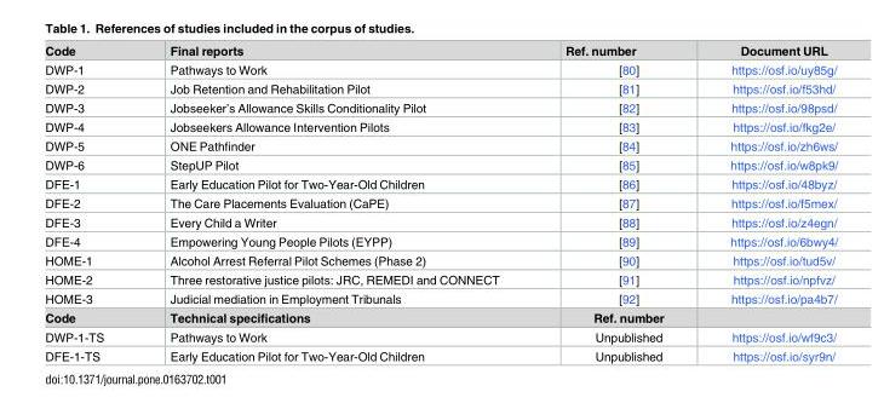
<table><tbody><tr><td>Code</td><td>Final reports</td><td>Ref. number</td><td>Document URL</td></tr><tr><td>DWP-1</td><td>Pathways to Work</td><td>[80]</td><td>https://osf.io/uy85g/</td></tr><tr><td>DWP-2</td><td>Job Retention and Rehabilitation Pilot</td><td>[81]</td><td>https://osf.io/f53hd/</td></tr><tr><td>DWP-3</td><td>Jobseeker’s Allowance Skills Conditionality Pilot</td><td>[82]</td><td>https://osf.io/98psd/</td></tr><tr><td>DWP-4</td><td>Jobseekers Allowance Intervention Pilots</td><td>[83]</td><td>https://osf.io/fkg2e/</td></tr><tr><td>DWP-5</td><td>ONE Pathfinder</td><td>[84]</td><td>https://osf.io/zh6ws/</td></tr><tr><td>DWP-6</td><td>StepUP Pilot</td><td>[85]</td><td>https://osf.io/w8pk9/</td></tr><tr><td>DFE-1</td><td>Early Education Pilot for Two-Year-Old Children</td><td>[86]</td><td>https://osf.io/48byz/</td></tr><tr><td>DFE-2</td><td>The Care Placements Evaluation (CaPE)</td><td>[87]</td><td>https://osf.io/f5mex/</td></tr><tr><td>DFE-3</td><td>Every Child a Writer</td><td>[88]</td><td>https://osf.io/z4egn/</td></tr><tr><td>DFE-4</td><td>Empowering Young People Pilots (EYPP)</td><td>[89]</td><td>https://osf.io/6bwy4/</td></tr><tr><td>HOME-1</td><td>Alcohol Arrest Referral Pilot Schemes (Phase 2)</td><td>[90]</td><td>https://osf.io/tud5v/</td></tr><tr><td>HOME-2</td><td>Three restorative justice pilots: JRC, REMEDI and CONNECT</td><td>[91]</td><td>https://osf.io/npfvz/</td></tr><tr><td>HOME-3</td><td>Judicial mediation in Employment Tribunals</td><td>[92]</td><td>https://osf.io/pa4b7/</td></tr><tr><td>Code</td><td>Technical specifications</td><td>Ref. number</td><td></td></tr><tr><td>DWP-1-TS</td><td>Pathways to Work</td><td>Unpublished</td><td>https://osf.io/wf9c3/</td></tr><tr><td>DFE-1-TS</td><td>Early Education Pilot for Two-Year-Old Children</td><td>Unpublished</td><td>https://osf.io/syr9n/</td></tr></tbody></table>